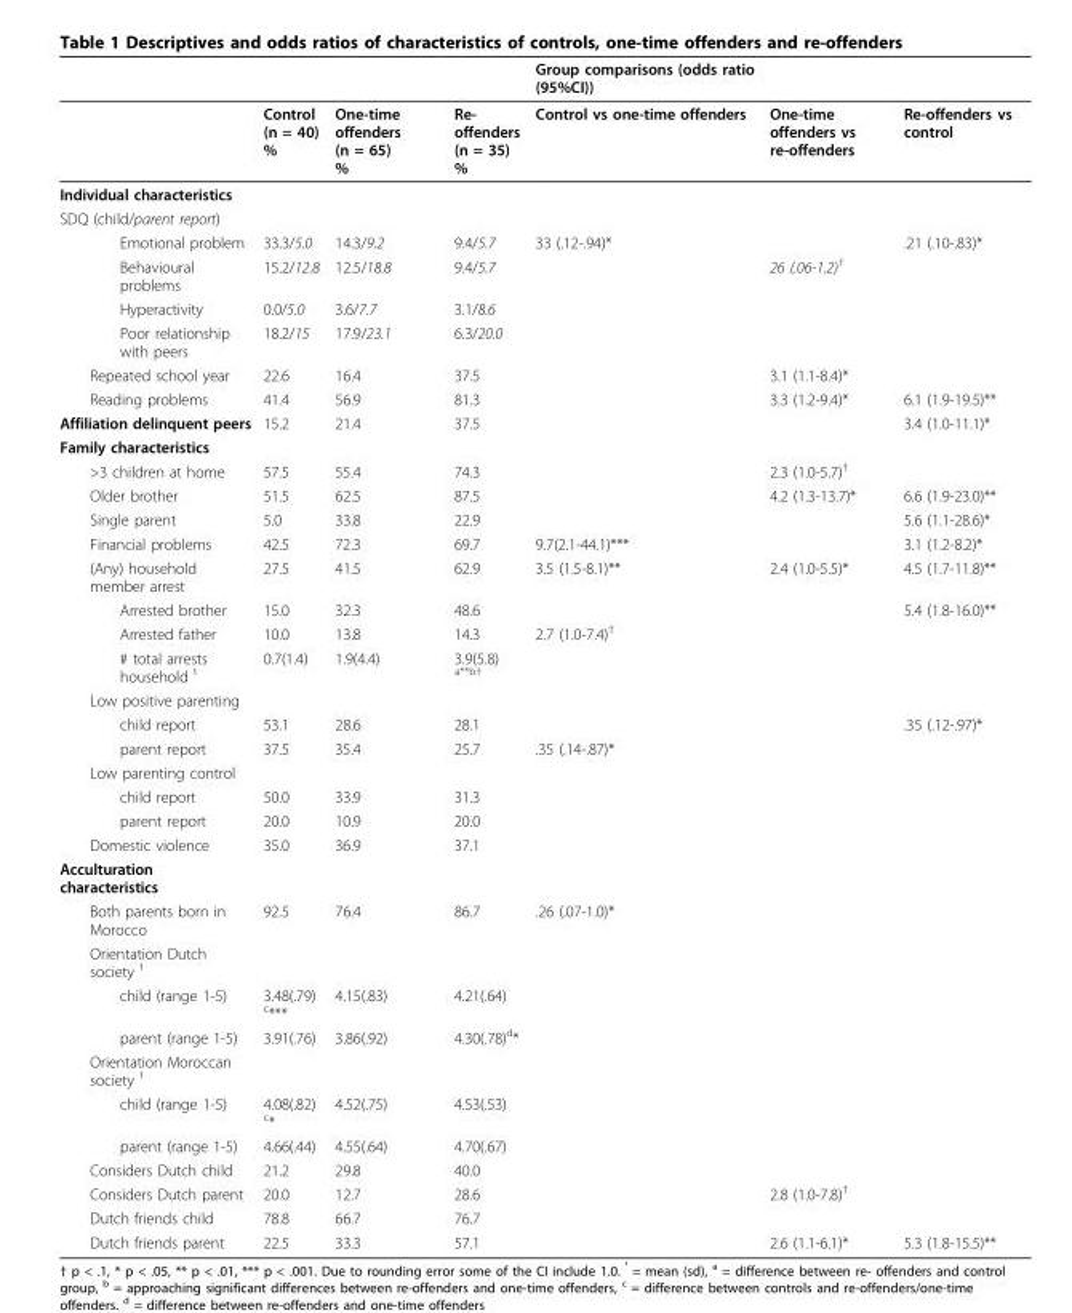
<table><thead><tr><td></td><td></td><td></td><td></td><td>Group comparisons (odds ratio (95%CI))</td><td></td><td></td></tr></thead><tbody><tr><td></td><td>Control (n = 40) %</td><td>One-time offenders (n = 65) %</td><td>Re- offenders (n = 35) %</td><td>Control vs one-time offenders</td><td>One-time offenders vs re-offenders</td><td>Re-offenders vs control</td></tr><tr><td colspan="7">Individual characteristics</td></tr><tr><td colspan="7">SDQ (child/parent report)</td></tr><tr><td>Emotional problem</td><td>33.3/5.0</td><td>14.3/9.2</td><td>9.4/5.7</td><td>33 (.12-.94)*</td><td></td><td>.21 (.10-.83)*</td></tr><tr><td>Behavioural problems</td><td>15.2/12.8</td><td>12.5/18.8</td><td>9.4/5.7</td><td></td><td>26 (.06-1.2)<sup>†</sup></td><td></td></tr><tr><td>Hyperactivity</td><td>0.0/5.0</td><td>3.6/7.7</td><td>3.1/8.6</td><td></td><td></td><td></td></tr><tr><td>Poor relationship with peers</td><td>18.2/15</td><td>17.9/23.1</td><td>6.3/20.0</td><td></td><td></td><td></td></tr><tr><td>Repeated school year</td><td>22.6</td><td>16.4</td><td>37.5</td><td></td><td>3.1 (1.1-8.4)*</td><td></td></tr><tr><td>Reading problems</td><td>41.4</td><td>56.9</td><td>81.3</td><td></td><td>3.3 (1.2-9.4)*</td><td>6.1 (1.9-19.5)**</td></tr><tr><td>Affiliation delinquent peers</td><td>15.2</td><td>21.4</td><td>37.5</td><td></td><td></td><td>3.4 (1.0-11.1)*</td></tr><tr><td colspan="7">Family characteristics</td></tr><tr><td>&gt;3 children at home</td><td>57.5</td><td>55.4</td><td>74.3</td><td></td><td>2.3 (1.0-5.7)<sup>†</sup></td><td></td></tr><tr><td>Older brother</td><td>51.5</td><td>62.5</td><td>87.5</td><td></td><td>4.2 (1.3-13.7)*</td><td>6.6 (1.9-23.0)**</td></tr><tr><td>Single parent</td><td>5.0</td><td>33.8</td><td>22.9</td><td></td><td></td><td>5.6 (1.1-28.6)*</td></tr><tr><td>Financial problems</td><td>42.5</td><td>72.3</td><td>69.7</td><td>9.7(2.1-44.1)***</td><td></td><td>3.1 (1.2-8.2)*</td></tr><tr><td>(Any) household member arrest</td><td>27.5</td><td>41.5</td><td>62.9</td><td>3.5 (1.5-8.1)**</td><td>2.4 (1.0-5.5)*</td><td>4.5 (1.7-11.8)**</td></tr><tr><td>Arrested brother</td><td>15.0</td><td>32.3</td><td>48.6</td><td></td><td></td><td>5.4 (1.8-16.0)**</td></tr><tr><td>Arrested father</td><td>10.0</td><td>13.8</td><td>14.3</td><td>2.7 (1.0-7.4)<sup>†</sup></td><td></td><td></td></tr><tr><td># total arrests household ¹</td><td>0.7(1.4)</td><td>1.9(4.4)</td><td>3.9(5.8) <sup>a**b†</sup></td><td></td><td></td><td></td></tr><tr><td colspan="7">Low positive parenting</td></tr><tr><td>child report</td><td>53.1</td><td>28.6</td><td>28.1</td><td></td><td></td><td>.35 (.12-.97)*</td></tr><tr><td>parent report</td><td>37.5</td><td>35.4</td><td>25.7</td><td>.35 (.14-.87)*</td><td></td><td></td></tr><tr><td colspan="7">Low parenting control</td></tr><tr><td>child report</td><td>50.0</td><td>33.9</td><td>31.3</td><td></td><td></td><td></td></tr><tr><td>parent report</td><td>20.0</td><td>10.9</td><td>20.0</td><td></td><td></td><td></td></tr><tr><td>Domestic violence</td><td>35.0</td><td>36.9</td><td>37.1</td><td></td><td></td><td></td></tr><tr><td colspan="7">Acculturation characteristics</td></tr><tr><td>Both parents born in Morocco</td><td>92.5</td><td>76.4</td><td>86.7</td><td>.26 (.07-1.0)*</td><td></td><td></td></tr><tr><td colspan="7">Orientation Dutch society ¹</td></tr><tr><td>child (range 1-5)</td><td>3.48(.79) <sup>c</sup>***</td><td>4.15(.83)</td><td>4.21(.64)</td><td></td><td></td><td></td></tr><tr><td>parent (range 1-5)</td><td>3.91(.76)</td><td>3.86(.92)</td><td>4.30(.78)<sup>d</sup>*</td><td></td><td></td><td></td></tr><tr><td colspan="7">Orientation Moroccan society ¹</td></tr><tr><td>child (range 1-5)</td><td>4.08(.82) <sup>c</sup>*</td><td>4.52(.75)</td><td>4.53(.53)</td><td></td><td></td><td></td></tr><tr><td>parent (range 1-5)</td><td>4.66(.44)</td><td>4.55(.64)</td><td>4.70(.67)</td><td></td><td></td><td></td></tr><tr><td>Considers Dutch child</td><td>21.2</td><td>29.8</td><td>40.0</td><td></td><td></td><td></td></tr><tr><td>Considers Dutch parent</td><td>20.0</td><td>12.7</td><td>28.6</td><td></td><td>2.8 (1.0-7.8)<sup>†</sup></td><td></td></tr><tr><td>Dutch friends child</td><td>78.8</td><td>66.7</td><td>76.7</td><td></td><td></td><td></td></tr><tr><td>Dutch friends parent</td><td>22.5</td><td>33.3</td><td>57.1</td><td></td><td>2.6 (1.1-6.1)*</td><td>5.3 (1.8-15.5)**</td></tr></tbody></table>